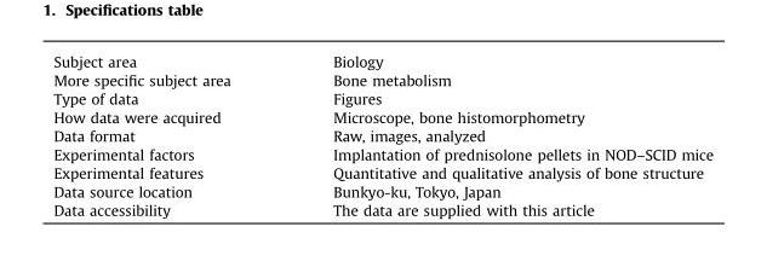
<table><tbody><tr><td>Subject area</td><td>Biology</td></tr><tr><td>More specific subject area</td><td>Bone metabolism</td></tr><tr><td>Type of data</td><td>Figures</td></tr><tr><td>How data were acquired</td><td>Microscope, bone histomorphometry</td></tr><tr><td>Data format</td><td>Raw, images, analyzed</td></tr><tr><td>Experimental factors</td><td>Implantation of prednisolone pellets in NOD–SCID mice</td></tr><tr><td>Experimental features</td><td>Quantitative and qualitative analysis of bone structure</td></tr><tr><td>Data source location</td><td>Bunkyo-ku, Tokyo, Japan</td></tr><tr><td>Data accessibility</td><td>The data are supplied with this article</td></tr></tbody></table>